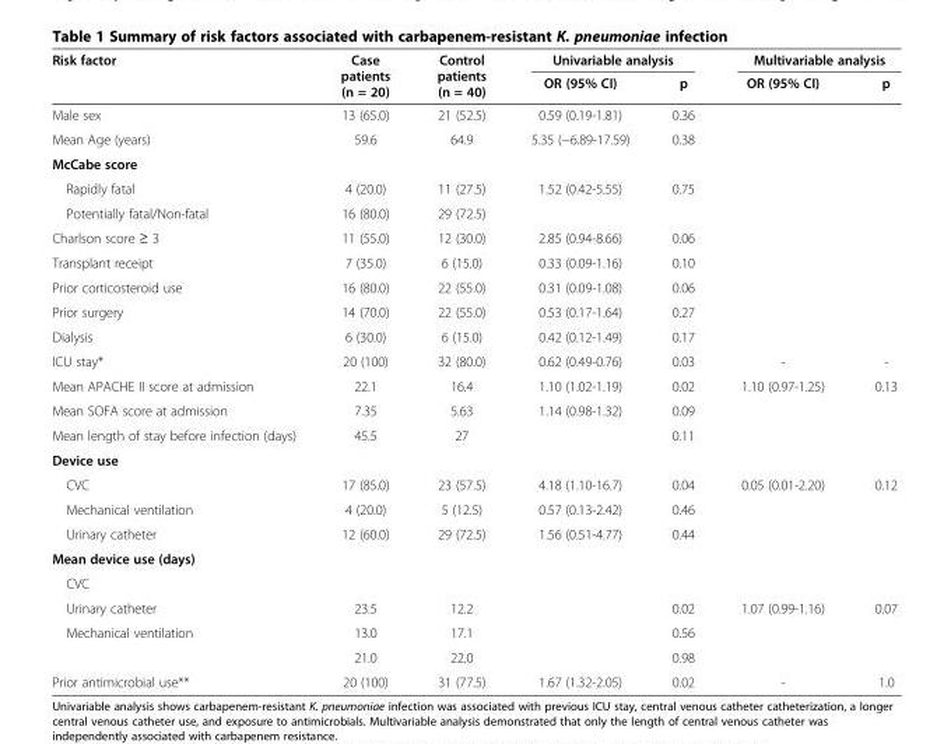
<table><thead><tr><td rowspan="2">Risk factor</td><td rowspan="2">Case patients (n = 20)</td><td rowspan="2">Control patients (n = 40)</td><td colspan="2">Univariable analysis</td><td colspan="2">Multivariable analysis</td></tr><tr><td>OR (95% CI)</td><td>p</td><td>OR (95% CI)</td><td>p</td></tr></thead><tbody><tr><td>Male sex</td><td>13 (65.0)</td><td>21 (52.5)</td><td>0.59 (0.19-1.81)</td><td>0.36</td><td></td><td></td></tr><tr><td>Mean Age (years)</td><td>59.6</td><td>64.9</td><td>5.35 (−6.89-17.59)</td><td>0.38</td><td></td><td></td></tr><tr><td colspan="7">McCabe score</td></tr><tr><td>Rapidly fatal</td><td>4 (20.0)</td><td>11 (27.5)</td><td>1.52 (0.42-5.55)</td><td>0.75</td><td></td><td></td></tr><tr><td>Potentially fatal/Non-fatal</td><td>16 (80.0)</td><td>29 (72.5)</td><td></td><td></td><td></td><td></td></tr><tr><td>Charlson score ≥ 3</td><td>11 (55.0)</td><td>12 (30.0)</td><td>2.85 (0.94-8.66)</td><td>0.06</td><td></td><td></td></tr><tr><td>Transplant receipt</td><td>7 (35.0)</td><td>6 (15.0)</td><td>0.33 (0.09-1.16)</td><td>0.10</td><td></td><td></td></tr><tr><td>Prior corticosteroid use</td><td>16 (80.0)</td><td>22 (55.0)</td><td>0.31 (0.09-1.08)</td><td>0.06</td><td></td><td></td></tr><tr><td>Prior surgery</td><td>14 (70.0)</td><td>22 (55.0)</td><td>0.53 (0.17-1.64)</td><td>0.27</td><td></td><td></td></tr><tr><td>Dialysis</td><td>6 (30.0)</td><td>6 (15.0)</td><td>0.42 (0.12-1.49)</td><td>0.17</td><td></td><td></td></tr><tr><td>ICU stay*</td><td>20 (100)</td><td>32 (80.0)</td><td>0.62 (0.49-0.76)</td><td>0.03</td><td>-</td><td>-</td></tr><tr><td>Mean APACHE II score at admission</td><td>22.1</td><td>16.4</td><td>1.10 (1.02-1.19)</td><td>0.02</td><td>1.10 (0.97-1.25)</td><td>0.13</td></tr><tr><td>Mean SOFA score at admission</td><td>7.35</td><td>5.63</td><td>1.14 (0.98-1.32)</td><td>0.09</td><td></td><td></td></tr><tr><td>Mean length of stay before infection (days)</td><td>45.5</td><td>27</td><td></td><td>0.11</td><td></td><td></td></tr><tr><td colspan="7">Device use</td></tr><tr><td>CVC</td><td>17 (85.0)</td><td>23 (57.5)</td><td>4.18 (1.10-16.7)</td><td>0.04</td><td>0.05 (0.01-2.20)</td><td>0.12</td></tr><tr><td>Mechanical ventilation</td><td>4 (20.0)</td><td>5 (12.5)</td><td>0.57 (0.13-2.42)</td><td>0.46</td><td rowspan="2"></td><td rowspan="2"></td></tr><tr><td>Urinary catheter</td><td>12 (60.0)</td><td>29 (72.5)</td><td>1.56 (0.51-4.77)</td><td>0.44</td></tr><tr><td colspan="7">Mean device use (days)</td></tr><tr><td colspan="7">CVC</td></tr><tr><td>Urinary catheter</td><td>23.5</td><td>12.2</td><td></td><td>0.02</td><td>1.07 (0.99-1.16)</td><td>0.07</td></tr><tr><td rowspan="2">Mechanical ventilation</td><td>13.0</td><td>17.1</td><td></td><td>0.56</td><td rowspan="2"></td><td rowspan="2"></td></tr><tr><td>21.0</td><td>22.0</td><td></td><td>0.98</td></tr><tr><td>Prior antimicrobial use**</td><td>20 (100)</td><td>31 (77.5)</td><td>1.67 (1.32-2.05)</td><td>0.02</td><td>-</td><td>1.0</td></tr></tbody></table>